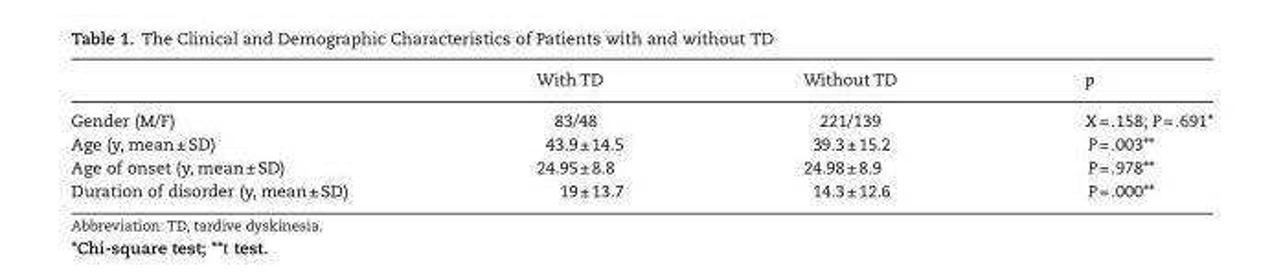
<table><thead><tr><td></td><td>With TD</td><td>Without TD</td><td>p</td></tr></thead><tbody><tr><td>Gender (M/F)</td><td>83/48</td><td>221/139</td><td>X = .158; P = .691*</td></tr><tr><td>Age (y, mean ± SD)</td><td>43.9 ± 14.5</td><td>39.3 ± 15.2</td><td>P = .003**</td></tr><tr><td>Age of onset (y, mean ± SD)</td><td>24.95 ± 8.8</td><td>24.98 ± 8.9</td><td>P = .978**</td></tr><tr><td>Duration of disorder (y, mean ± SD)</td><td>19 ± 13.7</td><td>14.3 ± 12.6</td><td>P = .000**</td></tr></tbody></table>